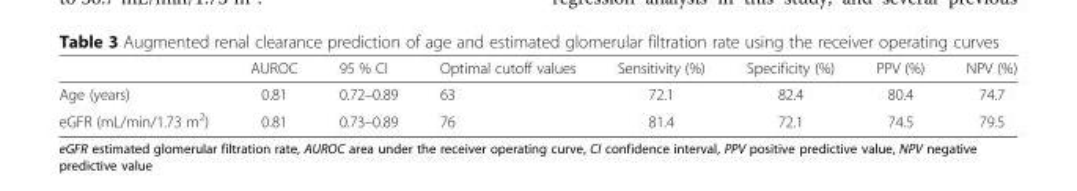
<table><thead><tr><td></td><td>AUROC</td><td>95 % CI</td><td>Optimal cutoff values</td><td>Sensitivity (%)</td><td>Specificity (%)</td><td>PPV (%)</td><td>NPV (%)</td></tr></thead><tbody><tr><td>Age (years)</td><td>0.81</td><td>0.72–0.89</td><td>63</td><td>72.1</td><td>82.4</td><td>80.4</td><td>74.7</td></tr><tr><td>eGFR (mL/min/1.73 m<sup>2</sup>)</td><td>0.81</td><td>0.73–0.89</td><td>76</td><td>81.4</td><td>72.1</td><td>74.5</td><td>79.5</td></tr></tbody></table>